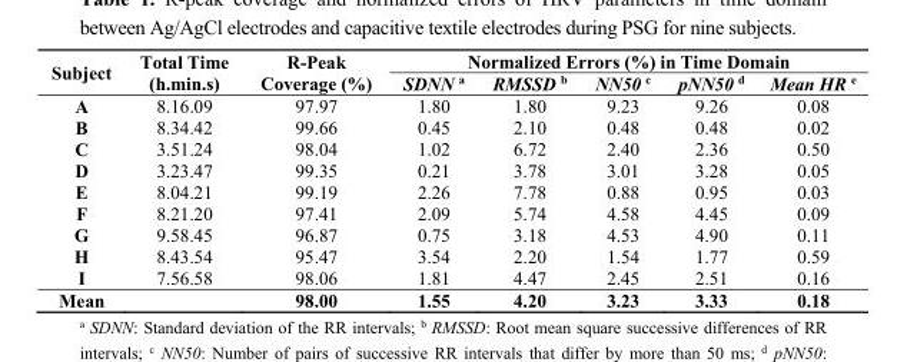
<table><thead><tr><td rowspan="2">Subject</td><td rowspan="2">Total Time (h.min.s)</td><td rowspan="2">R-Peak Coverage (%)</td><td colspan="5">Normalized Errors (%) in Time Domain</td></tr><tr><td>SDNN <sup>a</sup></td><td>RMSSD <sup>b</sup></td><td>NN50 <sup>c</sup></td><td>pNN50 <sup>d</sup></td><td>Mean HR <sup>e</sup></td></tr></thead><tbody><tr><td>A</td><td>8.16.09</td><td>97.97</td><td>1.80</td><td>1.80</td><td>9.23</td><td>9.26</td><td>0.08</td></tr><tr><td>B</td><td>8.34.42</td><td>99.66</td><td>0.45</td><td>2.10</td><td>0.48</td><td>0.48</td><td>0.02</td></tr><tr><td>C</td><td>3.51.24</td><td>98.04</td><td>1.02</td><td>6.72</td><td>2.40</td><td>2.36</td><td>0.50</td></tr><tr><td>D</td><td>3.23.47</td><td>99.35</td><td>0.21</td><td>3.78</td><td>3.01</td><td>3.28</td><td>0.05</td></tr><tr><td>E</td><td>8.04.21</td><td>99.19</td><td>2.26</td><td>7.78</td><td>0.88</td><td>0.95</td><td>0.03</td></tr><tr><td>F</td><td>8.21.20</td><td>97.41</td><td>2.09</td><td>5.74</td><td>4.58</td><td>4.45</td><td>0.09</td></tr><tr><td>G</td><td>9.58.45</td><td>96.87</td><td>0.75</td><td>3.18</td><td>4.53</td><td>4.90</td><td>0.11</td></tr><tr><td>H</td><td>8.43.54</td><td>95.47</td><td>3.54</td><td>2.20</td><td>1.54</td><td>1.77</td><td>0.59</td></tr><tr><td>I</td><td>7.56.58</td><td>98.06</td><td>1.81</td><td>4.47</td><td>2.45</td><td>2.51</td><td>0.16</td></tr><tr><td>Mean</td><td></td><td>98.00</td><td>1.55</td><td>4.20</td><td>3.23</td><td>3.33</td><td>0.18</td></tr></tbody></table>